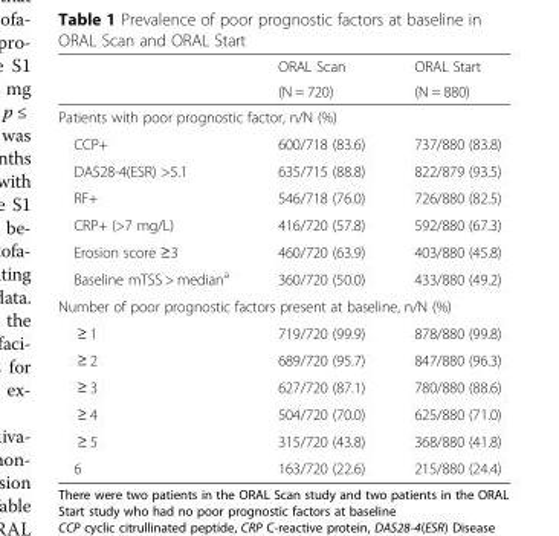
<table><thead><tr><td rowspan="2"></td><td rowspan="2">ORAL Scan (N = 720)</td><td rowspan="2">ORAL Start (N = 880)</td></tr><tr></tr></thead><tbody><tr><td colspan="3">Patients with poor prognostic factor, n/N (%)</td></tr><tr><td>CCP+</td><td>600/718 (83.6)</td><td>737/880 (83.8)</td></tr><tr><td>DAS28-4(ESR) &gt;5.1</td><td>635/715 (88.8)</td><td>822/879 (93.5)</td></tr><tr><td>RF+</td><td>546/718 (76.0)</td><td>726/880 (82.5)</td></tr><tr><td>CRP+ (&gt;7 mg/L)</td><td>416/720 (57.8)</td><td>592/880 (67.3)</td></tr><tr><td>Erosion score ≥3</td><td>460/720 (63.9)</td><td>403/880 (45.8)</td></tr><tr><td>Baseline mTSS &gt; median<sup>a</sup></td><td>360/720 (50.0)</td><td>433/880 (49.2)</td></tr><tr><td colspan="3">Number of poor prognostic factors present at baseline, n/N (%)</td></tr><tr><td>≥ 1</td><td>719/720 (99.9)</td><td>878/880 (99.8)</td></tr><tr><td>≥ 2</td><td>689/720 (95.7)</td><td>847/880 (96.3)</td></tr><tr><td>≥ 3</td><td>627/720 (87.1)</td><td>780/880 (88.6)</td></tr><tr><td>≥ 4</td><td>504/720 (70.0)</td><td>625/880 (71.0)</td></tr><tr><td>≥ 5</td><td>315/720 (43.8)</td><td>368/880 (41.8)</td></tr><tr><td>6</td><td>163/720 (22.6)</td><td>215/880 (24.4)</td></tr></tbody></table>